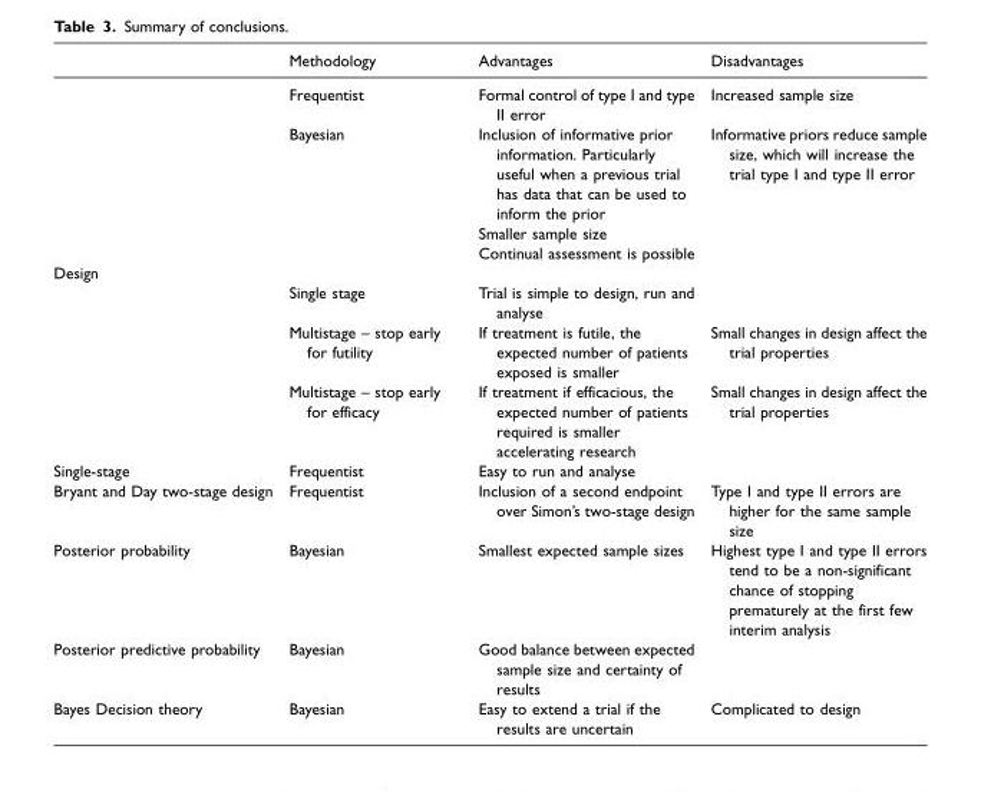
<table><thead><tr><td></td><td>Methodology</td><td>Advantages</td><td>Disadvantages</td></tr></thead><tbody><tr><td></td><td>Frequentist</td><td>Formal control of type I and type II error</td><td>Increased sample size</td></tr><tr><td></td><td>Bayesian</td><td>Inclusion of informative prior information. Particularly useful when a previous trial has data that can be used to inform the prior Smaller sample size Continual assessment is possible</td><td>Informative priors reduce sample size, which will increase the trial type I and type II error</td></tr><tr><td colspan="4">Design</td></tr><tr><td></td><td>Single stage</td><td>Trial is simple to design, run and analyse</td><td></td></tr><tr><td></td><td>Multistage – stop early for futility</td><td>If treatment is futile, the expected number of patients exposed is smaller</td><td>Small changes in design affect the trial properties</td></tr><tr><td></td><td>Multistage – stop early for efficacy</td><td>If treatment if efficacious, the expected number of patients required is smaller accelerating research</td><td>Small changes in design affect the trial properties</td></tr><tr><td>Single-stage</td><td>Frequentist</td><td>Easy to run and analyse</td><td></td></tr><tr><td>Bryant and Day two-stage design</td><td>Frequentist</td><td>Inclusion of a second endpoint over Simon’s two-stage design</td><td>Type I and type II errors are higher for the same sample size</td></tr><tr><td>Posterior probability</td><td>Bayesian</td><td>Smallest expected sample sizes</td><td>Highest type I and type II errors tend to be a non-significant chance of stopping prematurely at the first few interim analysis</td></tr><tr><td>Posterior predictive probability</td><td>Bayesian</td><td>Good balance between expected sample size and certainty of results</td><td></td></tr><tr><td>Bayes Decision theory</td><td>Bayesian</td><td>Easy to extend a trial if the results are uncertain</td><td>Complicated to design</td></tr></tbody></table>